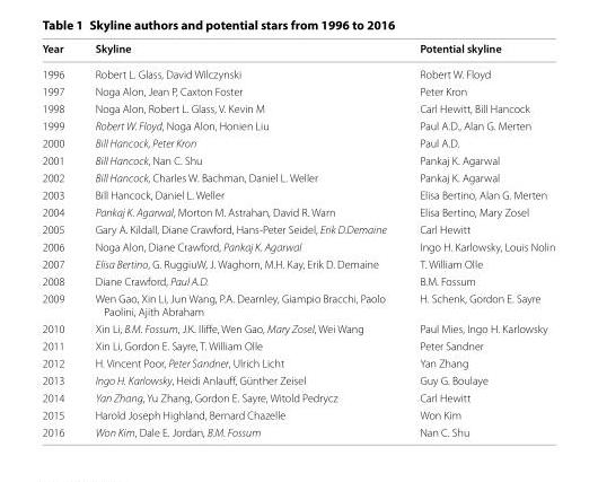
<table><thead><tr><td>Year</td><td>Skyline</td><td>Potential skyline</td></tr></thead><tbody><tr><td>1996</td><td>Robert L. Glass, David Wilczynski</td><td>Robert W. Floyd</td></tr><tr><td>1997</td><td>Noga Alon, Jean P, Caxton Foster</td><td>Peter Kron</td></tr><tr><td>1998</td><td>Noga Alon, Robert L. Glass, V. Kevin M</td><td>Carl Hewitt, Bill Hancock</td></tr><tr><td>1999</td><td>Robert W. Floyd, Noga Alon, Honien Liu</td><td>Paul A.D., Alan G. Merten</td></tr><tr><td>2000</td><td>Bill Hancock, Peter Kron</td><td>Paul A.D.</td></tr><tr><td>2001</td><td>Bill Hancock, Nan C. Shu</td><td>Pankaj K. Agarwal</td></tr><tr><td>2002</td><td>Bill Hancock, Charles W. Bachman, Daniel L. Weller</td><td>Pankaj K. Agarwal</td></tr><tr><td>2003</td><td>Bill Hancock, Daniel L. Weller</td><td>Elisa Bertino, Alan G. Merten</td></tr><tr><td>2004</td><td>Pankaj K. Agarwal, Morton M. Astrahan, David R. Warn</td><td>Elisa Bertino, Mary Zosel</td></tr><tr><td>2005</td><td>Gary A. Kildall, Diane Crawford, Hans-Peter Seidel, Erik D.Demaine</td><td>Carl Hewitt</td></tr><tr><td>2006</td><td>Noga Alon, Diane Crawford, Pankaj K. Agarwal</td><td>Ingo H. Karlowsky, Louis Nolin</td></tr><tr><td>2007</td><td>Elisa Bertino, G. RuggiuW, J. Waghorn, M.H. Kay, Erik D. Demaine</td><td>T. William Olle</td></tr><tr><td>2008</td><td>Diane Crawford, Paul A.D.</td><td>B.M. Fossum</td></tr><tr><td>2009</td><td>Wen Gao, Xin Li, Jun Wang, P.A. Dearnley, Giampio Bracchi, Paolo Paolini, Ajith Abraham</td><td>H. Schenk, Gordon E. Sayre</td></tr><tr><td>2010</td><td>Xin Li, B.M. Fossum, J.K. Iliffe, Wen Gao, Mary Zosel, Wei Wang</td><td>Paul Mies, Ingo H. Karlowsky</td></tr><tr><td>2011</td><td>Xin Li, Gordon E. Sayre, T. William Olle</td><td>Peter Sandner</td></tr><tr><td>2012</td><td>H. Vincent Poor, Peter Sandner, Ulrich Licht</td><td>Yan Zhang</td></tr><tr><td>2013</td><td>Ingo H. Karlowsky, Heidi Anlauff, Günther Zeisel</td><td>Guy G. Boulaye</td></tr><tr><td>2014</td><td>Yan Zhang, Yu Zhang, Gordon E. Sayre, Witold Pedrycz</td><td>Carl Hewitt</td></tr><tr><td>2015</td><td>Harold Joseph Highland, Bernard Chazelle</td><td>Won Kim</td></tr><tr><td>2016</td><td>Won Kim, Dale E. Jordan, B.M. Fossum</td><td>Nan C. Shu</td></tr></tbody></table>